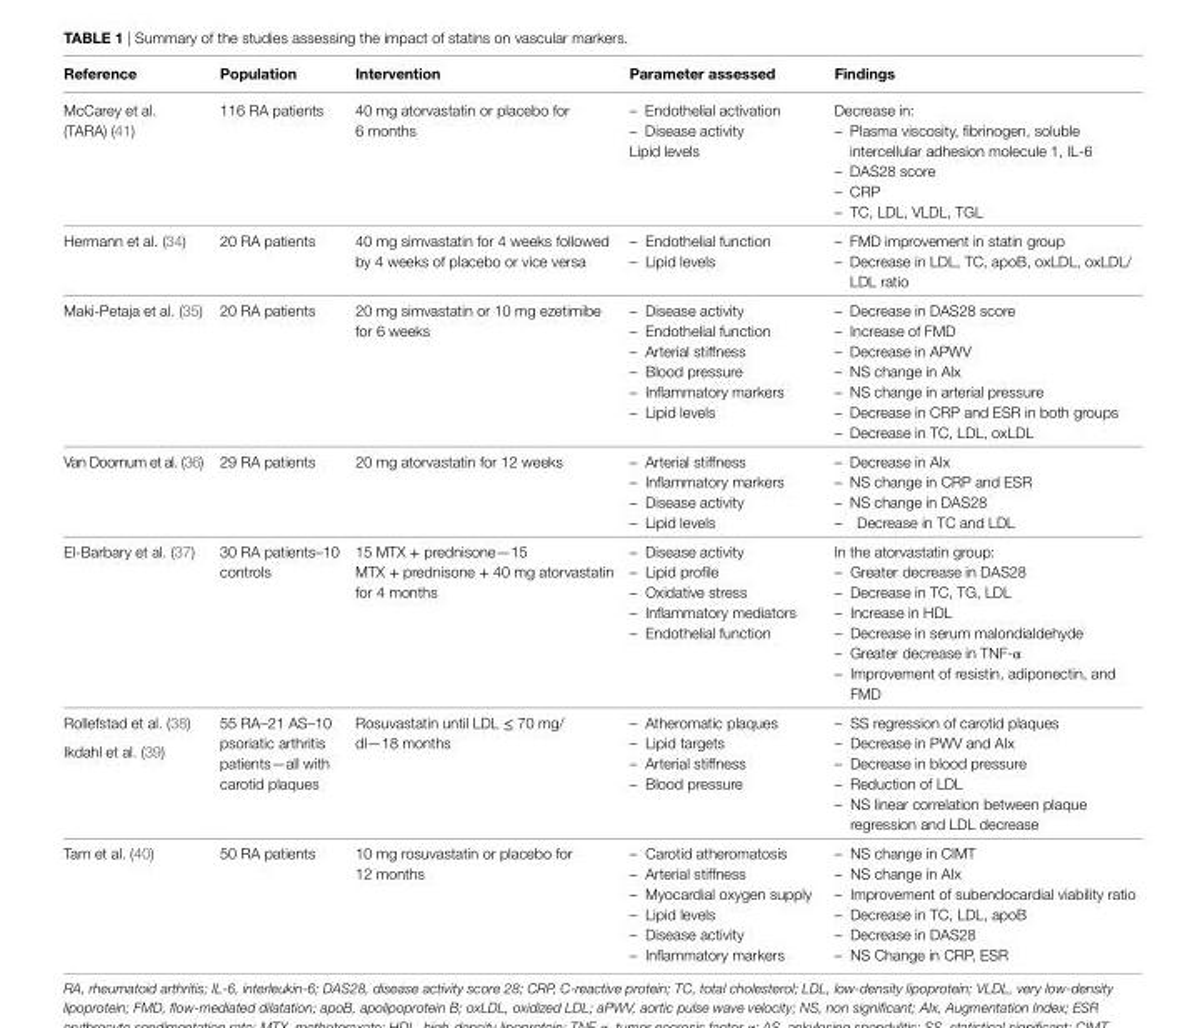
<table><thead><tr><td>Reference</td><td>Population</td><td>intervention</td><td>Parameter assessed</td><td>Findings</td></tr></thead><tbody><tr><td>McCarey et al. (TARA) (41)</td><td>116 RA patients</td><td>40 mg atorvastatin or placebo for 6 months</td><td>– Endothelial activation – Disease activity Lipid levels</td><td>Decrease in: – Plasma viscosity, fibrinogen, soluble intercellular adhesion molecule 1, IL-6 – DAS28 score – CRP – TC, LDL, VLDL, TGL</td></tr><tr><td>Hermann et al. (34)</td><td>20 RA patients</td><td>40 mg simvastatin for 4 weeks followed by 4 weeks of placebo or vice versa</td><td>– Endothelial function – Lipid levels</td><td>– FMD improvement in statin group – Decrease in LDL, TC, apoB, oxLDL, oxLDL/ LDL ratio</td></tr><tr><td>Maki-Petaja et al. (35)</td><td>20 RA patients</td><td>20 mg simvastatin or 10 mg ezetimibe for 6 weeks</td><td>– Disease activity – Endothelial function – Arterial stiffness – Blood pressure – Inflammatory markers – Lipid levels</td><td>– Decrease in DAS28 score – Increase of FMD – Decrease in APWV – NS change in AIx – NS change in arterial pressure – Decrease in CRP and ESR in both groups – Decrease in TC, LDL, oxLDL</td></tr><tr><td>Van Doornum et al. (36)</td><td>29 RA patients</td><td>20 mg atorvastatin for 12 weeks</td><td>– Arterial stiffness – Inflammatory markers – Disease activity – Lipid levels</td><td>– Decrease in AIx – NS change in CRP and ESR – NS change in DAS28 – Decrease in TC and LDL</td></tr><tr><td>El-Barbary et al. (37)</td><td>30 RA patients–10 controls</td><td>15 MTX + prednisone—15 MTX + prednisone + 40 mg atorvastatin for 4 months</td><td>– Disease activity – Lipid profile – Oxidative stress – Inflammatory mediators – Endothelial function</td><td>In the atorvastatin group: – Greater decrease in DAS28 – Decrease in TC, TG, LDL – Increase in HDL – Decrease in serum malondialdehyde – Greater decrease in TNF-α – Improvement of resistin, adiponectin, and FMD</td></tr><tr><td>Rollefstad et al. (38) Ikdahl et al. (39)</td><td>55 RA–21 AS–10 psoriatic arthritis patients—all with carotid plaques</td><td>Rosuvastatin until LDL ≤ 70 mg/ dl—18 months</td><td>– Atheromatic plaques – Lipid targets – Arterial stiffness – Blood pressure</td><td>– SS regression of carotid plaques – Decrease in PWV and AIx – Decrease in blood pressure – Reduction of LDL – NS linear correlation between plaque regression and LDL decrease</td></tr><tr><td>Tam et al. (40)</td><td>50 RA patients</td><td>10 mg rosuvastatin or placebo for 12 months</td><td>– Carotid atheromatosis – Arterial stiffness – Myocardial oxygen supply – Lipid levels – Disease activity – Inflammatory markers</td><td>– NS change in CIMT – NS change in AIx – Improvement of subendocardial viability ratio – Decrease in TC, LDL, apoB – Decrease in DAS28 – NS Change in CRP, ESR</td></tr></tbody></table>